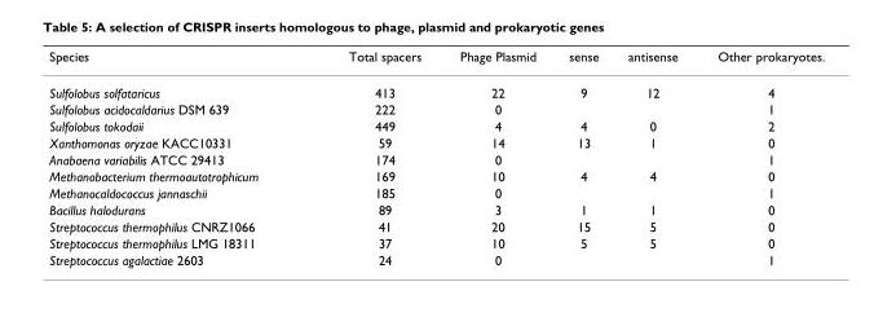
<table><thead><tr><td>Species</td><td>Total spacers</td><td>Phage Plasmid</td><td>sense</td><td>antisense</td><td>Other prokaryotes.</td></tr></thead><tbody><tr><td>Sulfolobus solfataricus</td><td>413</td><td>22</td><td>9</td><td>12</td><td>4</td></tr><tr><td>Sulfolobus acidocaldarius DSM 639</td><td>222</td><td>0</td><td></td><td></td><td>1</td></tr><tr><td>Sulfolobus tokodaii</td><td>449</td><td>4</td><td>4</td><td>0</td><td>2</td></tr><tr><td>Xanthomonas oryzae KACC10331</td><td>59</td><td>14</td><td>13</td><td>1</td><td>0</td></tr><tr><td>Anabaena variabilis ATCC 29413</td><td>174</td><td>0</td><td></td><td></td><td>1</td></tr><tr><td>Methanobacterium thermoautotrophicum</td><td>169</td><td>10</td><td>4</td><td>4</td><td>0</td></tr><tr><td>Methanocaldococcus jannaschii</td><td>185</td><td>0</td><td></td><td></td><td>1</td></tr><tr><td>Bacillus halodurans</td><td>89</td><td>3</td><td>1</td><td>1</td><td>0</td></tr><tr><td>Streptococcus thermophilus CNRZ1066</td><td>41</td><td>20</td><td>15</td><td>5</td><td>0</td></tr><tr><td>Streptococcus thermophilus LMG 18311</td><td>37</td><td>10</td><td>5</td><td>5</td><td>0</td></tr><tr><td>Streptococcus agalactiae 2603</td><td>24</td><td>0</td><td></td><td></td><td>1</td></tr></tbody></table>